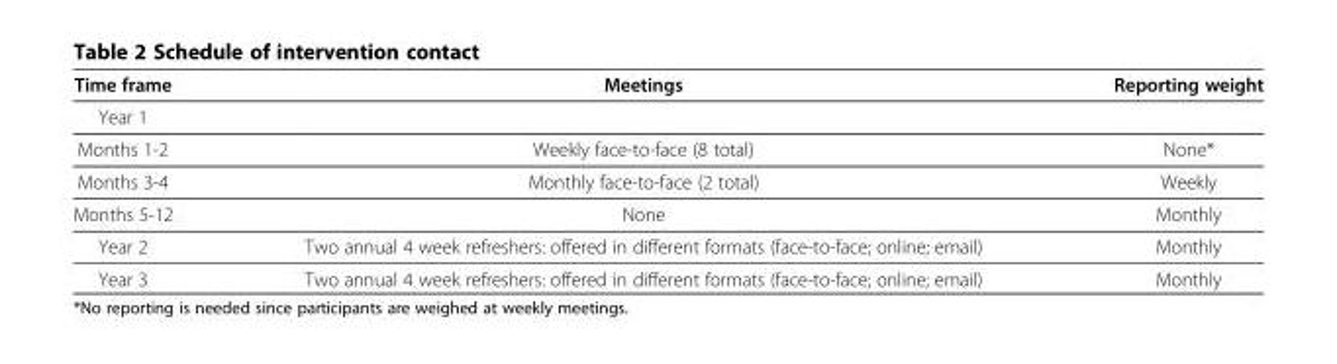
<table><thead><tr><td>Time frame</td><td>Meetings</td><td>Reporting weight</td></tr></thead><tbody><tr><td colspan="3">Year 1</td></tr><tr><td>Months 1-2</td><td>Weekly face-to-face (8 total)</td><td>None*</td></tr><tr><td>Months 3-4</td><td>Monthly face-to-face (2 total)</td><td>Weekly</td></tr><tr><td>Months 5-12</td><td>None</td><td>Monthly</td></tr><tr><td>Year 2</td><td>Two annual 4 week refreshers: offered in different formats (face-to-face; online; email)</td><td>Monthly</td></tr><tr><td>Year 3</td><td>Two annual 4 week refreshers: offered in different formats (face-to-face; online; email)</td><td>Monthly</td></tr></tbody></table>